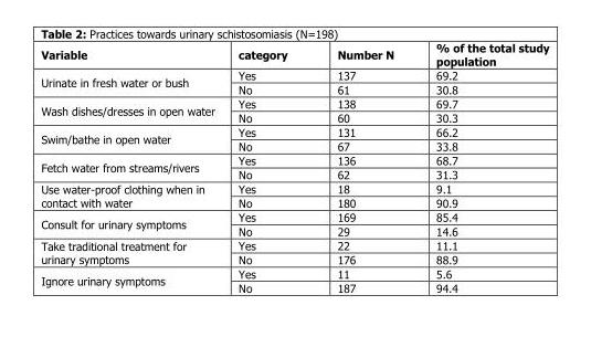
<table><thead><tr><td>Variable</td><td>category</td><td>Number N</td><td>% of the total study population</td></tr></thead><tbody><tr><td rowspan="2">Urinate in fresh water or bush</td><td>Yes</td><td>137</td><td>69.2</td></tr><tr><td>No</td><td>61</td><td>30.8</td></tr><tr><td rowspan="2">Wash dishes/dresses in open water</td><td>Yes</td><td>138</td><td>69.7</td></tr><tr><td>No</td><td>60</td><td>30.3</td></tr><tr><td rowspan="2">Swim/bathe in open water</td><td>Yes</td><td>131</td><td>66.2</td></tr><tr><td>No</td><td>67</td><td>33.8</td></tr><tr><td rowspan="2">Fetch water from streams/rivers</td><td>Yes</td><td>136</td><td>68.7</td></tr><tr><td>No</td><td>62</td><td>31.3</td></tr><tr><td rowspan="2">Use water-proof clothing when in contact with water</td><td>Yes</td><td>18</td><td>9.1</td></tr><tr><td>No</td><td>180</td><td>90.9</td></tr><tr><td rowspan="2">Consult for urinary symptoms</td><td>Yes</td><td>169</td><td>85.4</td></tr><tr><td>No</td><td>29</td><td>14.6</td></tr><tr><td rowspan="2">Take traditional treatment for urinary symptoms</td><td>Yes</td><td>22</td><td>11.1</td></tr><tr><td>No</td><td>176</td><td>88.9</td></tr><tr><td rowspan="2">Ignore urinary symptoms</td><td>Yes</td><td>11</td><td>5.6</td></tr><tr><td>No</td><td>187</td><td>94.4</td></tr></tbody></table>